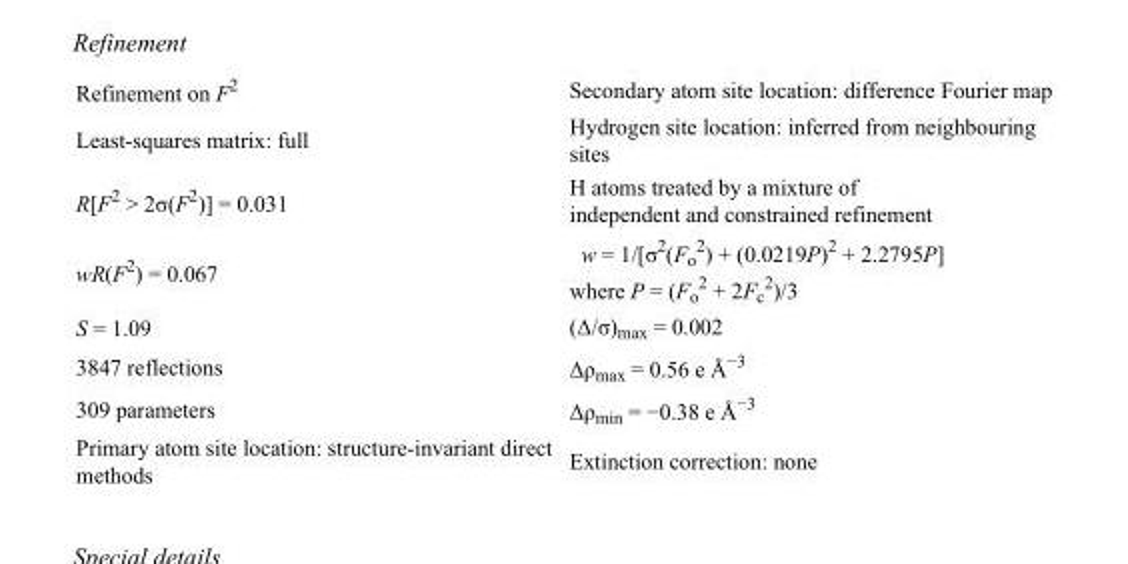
<table><tbody><tr><td>Refinement on F<sup>2</sup></td><td>Secondary atom site location: difference Fourier map</td></tr><tr><td>Least-squares matrix: full</td><td>Hydrogen site location: inferred from neighbouring sites</td></tr><tr><td>R[F<sup>2</sup> &gt; 2σ(F<sup>2</sup>)] = 0.031</td><td>H atoms treated by a mixture of independent and constrained refinement</td></tr><tr><td>wR(F<sup>2</sup>) = 0.067</td><td>w = 1/[σ<sup>2</sup>(F<sub>o</sub> <sup>2</sup>) + (0.0219P)<sup>2</sup> + 2.2795P] where P = (F<sub>o</sub> <sup>2</sup> + 2F<sub>c</sub> <sup>2</sup>)/3</td></tr><tr><td>S = 1.09</td><td>(Δ/σ)<sub>max</sub> = 0.002</td></tr><tr><td>3847 reflections</td><td>Δρ<sub>max</sub> = 0.56 e Å<sup>−3</sup></td></tr><tr><td>309 parameters</td><td>Δρ<sub>min</sub> = −0.38 e Å<sup>−3</sup></td></tr><tr><td>Primary atom site location: structure-invariant direct methods</td><td>Extinction correction: none</td></tr></tbody></table>